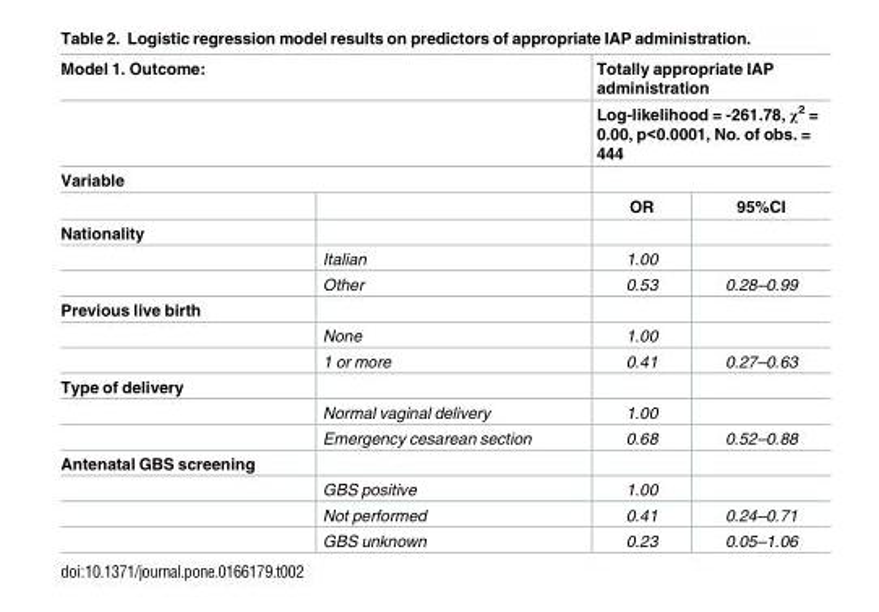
<table><thead><tr><td colspan="2">Model 1. Outcome:</td><td rowspan="2" colspan="2">Totally appropriate IAP administration Log-likelihood = -261.78, χ<sup>2</sup> = 0.00, p&lt;0.0001, No. of obs. = 444</td></tr><tr><td></td><td></td></tr><tr><td colspan="2">Variable</td><td rowspan="2">OR</td><td rowspan="2">95%CI</td></tr><tr><td></td><td></td></tr></thead><tbody><tr><td colspan="4">Nationality</td></tr><tr><td></td><td>Italian</td><td>1.00</td><td></td></tr><tr><td></td><td>Other</td><td>0.53</td><td>0.28–0.99</td></tr><tr><td colspan="4">Previous live birth</td></tr><tr><td></td><td>None</td><td>1.00</td><td></td></tr><tr><td></td><td>1 or more</td><td>0.41</td><td>0.27–0.63</td></tr><tr><td colspan="4">Type of delivery</td></tr><tr><td></td><td>Normal vaginal delivery</td><td>1.00</td><td></td></tr><tr><td></td><td>Emergency cesarean section</td><td>0.68</td><td>0.52–0.88</td></tr><tr><td colspan="4">Antenatal GBS screening</td></tr><tr><td></td><td>GBS positive</td><td>1.00</td><td></td></tr><tr><td></td><td>Not performed</td><td>0.41</td><td>0.24–0.71</td></tr><tr><td></td><td>GBS unknown</td><td>0.23</td><td>0.05–1.06</td></tr></tbody></table>